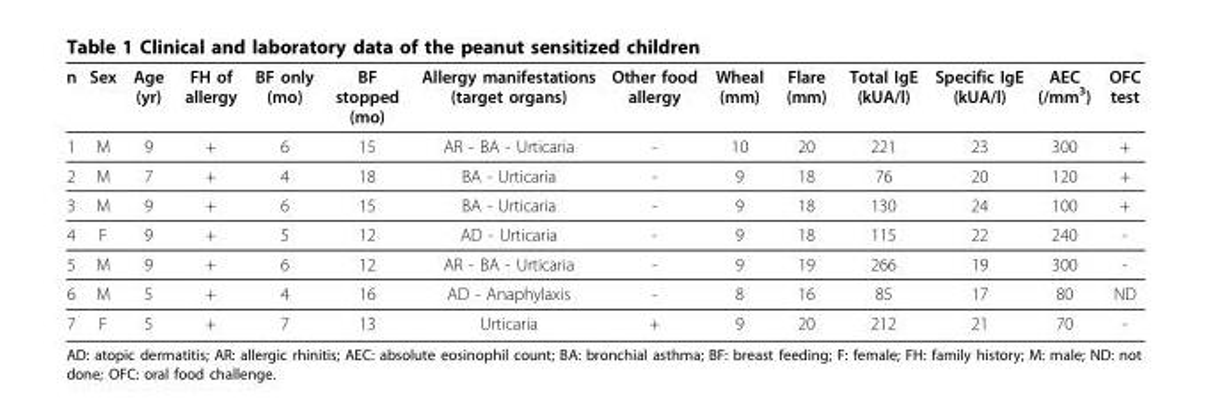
<table><thead><tr><td>n</td><td>Sex</td><td>Age (yr)</td><td>FH of allergy</td><td>BF only (mo)</td><td>BF stopped (mo)</td><td>Allergy manifestations (target organs)</td><td>Other food allergy</td><td>Wheal (mm)</td><td>Flare (mm)</td><td>Total IgE (kUA/l)</td><td>Specific IgE (kUA/l)</td><td>AEC (/mm<sup>3</sup>)</td><td>OFC test</td></tr></thead><tbody><tr><td>1</td><td>M</td><td>9</td><td>+</td><td>6</td><td>15</td><td>AR - BA - Urticaria</td><td>-</td><td>10</td><td>20</td><td>221</td><td>23</td><td>300</td><td>+</td></tr><tr><td>2</td><td>M</td><td>7</td><td>+</td><td>4</td><td>18</td><td>BA - Urticaria</td><td>-</td><td>9</td><td>18</td><td>76</td><td>20</td><td>120</td><td>+</td></tr><tr><td>3</td><td>M</td><td>9</td><td>+</td><td>6</td><td>15</td><td>BA - Urticaria</td><td>-</td><td>9</td><td>18</td><td>130</td><td>24</td><td>100</td><td>+</td></tr><tr><td>4</td><td>F</td><td>9</td><td>+</td><td>5</td><td>12</td><td>AD - Urticaria</td><td>-</td><td>9</td><td>18</td><td>115</td><td>22</td><td>240</td><td>-</td></tr><tr><td>5</td><td>M</td><td>9</td><td>+</td><td>6</td><td>12</td><td>AR - BA - Urticaria</td><td>-</td><td>9</td><td>19</td><td>266</td><td>19</td><td>300</td><td>-</td></tr><tr><td>6</td><td>M</td><td>5</td><td>+</td><td>4</td><td>16</td><td>AD - Anaphylaxis</td><td>-</td><td>8</td><td>16</td><td>85</td><td>17</td><td>80</td><td>ND</td></tr><tr><td>7</td><td>F</td><td>5</td><td>+</td><td>7</td><td>13</td><td>Urticaria</td><td>+</td><td>9</td><td>20</td><td>212</td><td>21</td><td>70</td><td>-</td></tr></tbody></table>